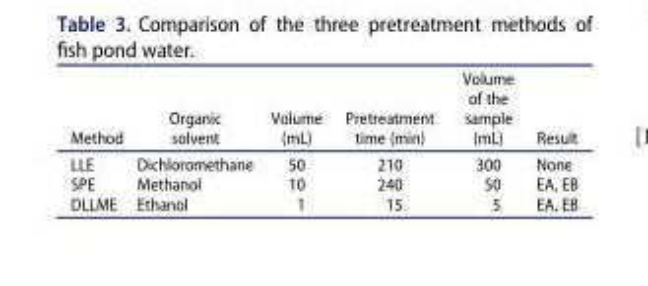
<table><thead><tr><td>Method</td><td>Organic solvent</td><td>Volume (mL)</td><td>Pretreatment time (min)</td><td>Volume of the sample (mL)</td><td>Result</td></tr></thead><tbody><tr><td>LLE</td><td>Dichloromethane</td><td>50</td><td>210</td><td>300</td><td>None</td></tr><tr><td>SPE</td><td>Methanol</td><td>10</td><td>240</td><td>50</td><td>EA, EB</td></tr><tr><td>DLLME</td><td>Ethanol</td><td>1</td><td>15</td><td>5</td><td>EA, EB</td></tr></tbody></table>